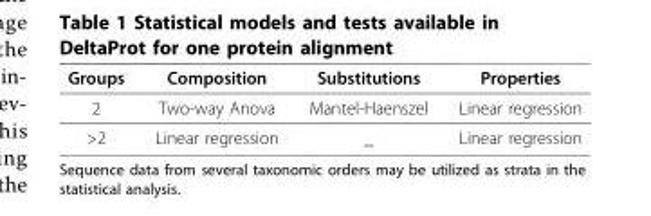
<table><thead><tr><td>Groups</td><td>Composition</td><td>Substitutions</td><td>Properties</td></tr></thead><tbody><tr><td>2</td><td>Two-way Anova</td><td>Mantel-Haenszel</td><td>Linear regression</td></tr><tr><td>&gt;2</td><td>Linear regression</td><td>_</td><td>Linear regression</td></tr></tbody></table>